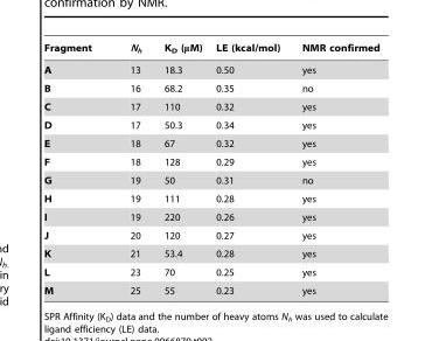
<table><thead><tr><td>Fragment</td><td>N<sub>h</sub></td><td>K<sub>D</sub> (μM)</td><td>LE (kcal/mol)</td><td>NMR confirmed</td></tr></thead><tbody><tr><td>A</td><td>13</td><td>18.3</td><td>0.50</td><td>yes</td></tr><tr><td>B</td><td>16</td><td>68.2</td><td>0.35</td><td>no</td></tr><tr><td>C</td><td>17</td><td>110</td><td>0.32</td><td>yes</td></tr><tr><td>D</td><td>17</td><td>50.3</td><td>0.34</td><td>yes</td></tr><tr><td>E</td><td>18</td><td>67</td><td>0.32</td><td>yes</td></tr><tr><td>F</td><td>18</td><td>128</td><td>0.29</td><td>yes</td></tr><tr><td>G</td><td>19</td><td>50</td><td>0.31</td><td>no</td></tr><tr><td>H</td><td>19</td><td>111</td><td>0.28</td><td>yes</td></tr><tr><td>I</td><td>19</td><td>220</td><td>0.26</td><td>yes</td></tr><tr><td>J</td><td>20</td><td>120</td><td>0.27</td><td>yes</td></tr><tr><td>K</td><td>21</td><td>53.4</td><td>0.28</td><td>yes</td></tr><tr><td>L</td><td>23</td><td>70</td><td>0.25</td><td>yes</td></tr><tr><td>M</td><td>25</td><td>55</td><td>0.23</td><td>yes</td></tr></tbody></table>